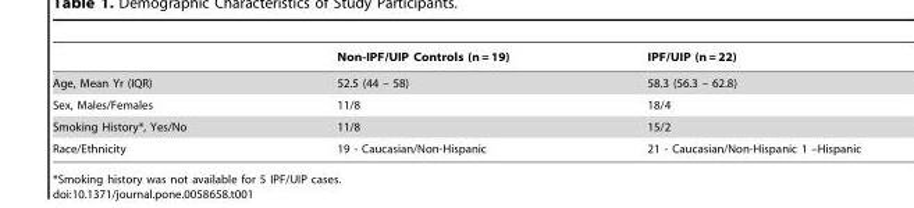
<table><thead><tr><td></td><td>Non-IPF/UIP Controls (n = 19)</td><td>IPF/UIP (n = 22)</td></tr></thead><tbody><tr><td>Age, Mean Yr (IQR)</td><td>52.5 (44 – 58)</td><td>58.3 (56.3 – 62.8)</td></tr><tr><td>Sex, Males/Females</td><td>11/8</td><td>18/4</td></tr><tr><td>Smoking History*, Yes/No</td><td>11/8</td><td>15/2</td></tr><tr><td>Race/Ethnicity</td><td>19 - Caucasian/Non-Hispanic</td><td>21 - Caucasian/Non-Hispanic 1 –Hispanic</td></tr></tbody></table>